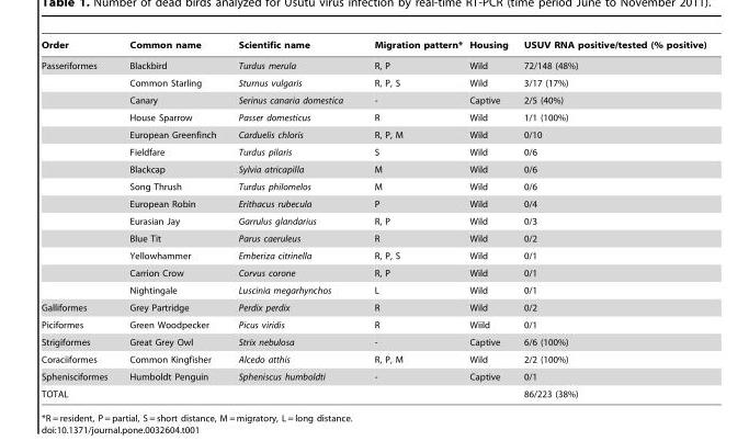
<table><thead><tr><td>Order</td><td>Common name</td><td>Scientific name</td><td>Migration pattern*</td><td>Housing</td><td>USUV RNA positive/tested (% positive)</td></tr></thead><tbody><tr><td rowspan="14">Passeriformes</td><td>Blackbird</td><td>Turdus merula</td><td>R, P</td><td>Wild</td><td>72/148 (48%)</td></tr><tr><td>Common Starling</td><td>Sturnus vulgaris</td><td>R, P, S</td><td>Wild</td><td>3/17 (17%)</td></tr><tr><td>Canary</td><td>Serinus canaria domestica</td><td>-</td><td>Captive</td><td>2/5 (40%)</td></tr><tr><td>House Sparrow</td><td>Passer domesticus</td><td>R</td><td>Wild</td><td>1/1 (100%)</td></tr><tr><td>European Greenfinch</td><td>Carduelis chloris</td><td>R, P, M</td><td>Wild</td><td>0/10</td></tr><tr><td>Fieldfare</td><td>Turdus pilaris</td><td>S</td><td>Wild</td><td>0/6</td></tr><tr><td>Blackcap</td><td>Sylvia atricapilla</td><td>M</td><td>Wild</td><td>0/6</td></tr><tr><td>Song Thrush</td><td>Turdus philomelos</td><td>M</td><td>Wild</td><td>0/6</td></tr><tr><td>European Robin</td><td>Erithacus rubecula</td><td>P</td><td>Wild</td><td>0/4</td></tr><tr><td>Eurasian Jay</td><td>Garrulus glandarius</td><td>R, P</td><td>Wild</td><td>0/3</td></tr><tr><td>Blue Tit</td><td>Parus caeruleus</td><td>R</td><td>Wild</td><td>0/2</td></tr><tr><td>Yellowhammer</td><td>Emberiza citrinella</td><td>R, P, S</td><td>Wild</td><td>0/1</td></tr><tr><td>Carrion Crow</td><td>Corvus corone</td><td>R, P</td><td>Wild</td><td>0/1</td></tr><tr><td>Nightingale</td><td>Luscinia megarhynchos</td><td>L</td><td>Wild</td><td>0/1</td></tr><tr><td>Galliformes</td><td>Grey Partridge</td><td>Perdix perdix</td><td>R</td><td>Wild</td><td>0/2</td></tr><tr><td>Piciformes</td><td>Green Woodpecker</td><td>Picus viridis</td><td>R</td><td>Wiild</td><td>0/1</td></tr><tr><td>Strigiformes</td><td>Great Grey Owl</td><td>Strix nebulosa</td><td>-</td><td>Captive</td><td>6/6 (100%)</td></tr><tr><td>Coraciiformes</td><td>Common Kingfisher</td><td>Alcedo atthis</td><td>R, P, M</td><td>Wild</td><td>2/2 (100%)</td></tr><tr><td>Sphenisciformes</td><td>Humboldt Penguin</td><td>Spheniscus humboldti</td><td>-</td><td>Captive</td><td>0/1</td></tr><tr><td colspan="5">TOTAL</td><td>86/223 (38%)</td></tr></tbody></table>